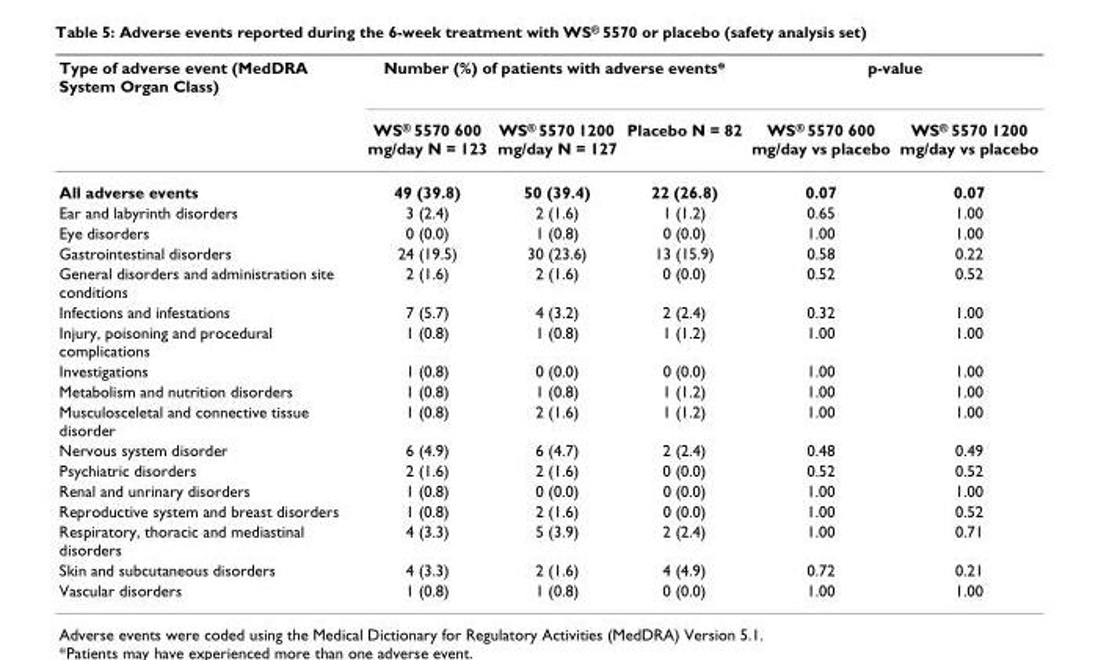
<table><thead><tr><td rowspan="2">Type of adverse event (MedDRA System Organ Class)</td><td colspan="3">Number (%) of patients with adverse events*</td><td colspan="2">p-value</td></tr><tr><td>WS® 5570 600 mg/day N = 123</td><td>WS® 5570 1200 mg/day N = 127</td><td>Placebo N = 82</td><td>WS® 5570 600 mg/day vs placebo</td><td>WS® 5570 1200 mg/day vs placebo</td></tr></thead><tbody><tr><td>All adverse events</td><td>49 (39.8)</td><td>50 (39.4)</td><td>22 (26.8)</td><td>0.07</td><td>0.07</td></tr><tr><td>Ear and labyrinth disorders</td><td>3 (2.4)</td><td>2 (1.6)</td><td>1 (1.2)</td><td>0.65</td><td>1.00</td></tr><tr><td>Eye disorders</td><td>0 (0.0)</td><td>1 (0.8)</td><td>0 (0.0)</td><td>1.00</td><td>1.00</td></tr><tr><td>Gastrointestinal disorders</td><td>24 (19.5)</td><td>30 (23.6)</td><td>13 (15.9)</td><td>0.58</td><td>0.22</td></tr><tr><td>General disorders and administration site conditions</td><td>2 (1.6)</td><td>2 (1.6)</td><td>0 (0.0)</td><td>0.52</td><td>0.52</td></tr><tr><td>Infections and infestations</td><td>7 (5.7)</td><td>4 (3.2)</td><td>2 (2.4)</td><td>0.32</td><td>1.00</td></tr><tr><td>Injury, poisoning and procedural complications</td><td>1 (0.8)</td><td>1 (0.8)</td><td>1 (1.2)</td><td>1.00</td><td>1.00</td></tr><tr><td>Investigations</td><td>1 (0.8)</td><td>0 (0.0)</td><td>0 (0.0)</td><td>1.00</td><td>1.00</td></tr><tr><td>Metabolism and nutrition disorders</td><td>1 (0.8)</td><td>1 (0.8)</td><td>1 (1.2)</td><td>1.00</td><td>1.00</td></tr><tr><td>Musculosceletal and connective tissue disorder</td><td>1 (0.8)</td><td>2 (1.6)</td><td>1 (1.2)</td><td>1.00</td><td>1.00</td></tr><tr><td>Nervous system disorder</td><td>6 (4.9)</td><td>6 (4.7)</td><td>2 (2.4)</td><td>0.48</td><td>0.49</td></tr><tr><td>Psychiatric disorders</td><td>2 (1.6)</td><td>2 (1.6)</td><td>0 (0.0)</td><td>0.52</td><td>0.52</td></tr><tr><td>Renal and unrinary disorders</td><td>1 (0.8)</td><td>0 (0.0)</td><td>0 (0.0)</td><td>1.00</td><td>1.00</td></tr><tr><td>Reproductive system and breast disorders</td><td>1 (0.8)</td><td>2 (1.6)</td><td>0 (0.0)</td><td>1.00</td><td>0.52</td></tr><tr><td>Respiratory, thoracic and mediastinal disorders</td><td>4 (3.3)</td><td>5 (3.9)</td><td>2 (2.4)</td><td>1.00</td><td>0.71</td></tr><tr><td>Skin and subcutaneous disorders</td><td>4 (3.3)</td><td>2 (1.6)</td><td>4 (4.9)</td><td>0.72</td><td>0.21</td></tr><tr><td>Vascular disorders</td><td>1 (0.8)</td><td>1 (0.8)</td><td>0 (0.0)</td><td>1.00</td><td>1.00</td></tr></tbody></table>